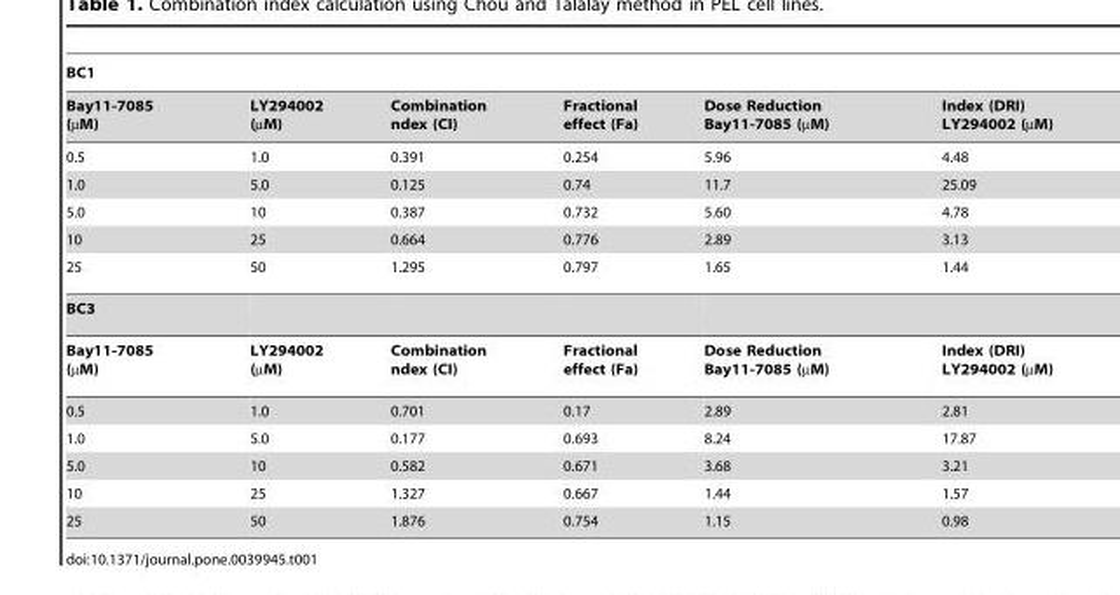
<table><thead><tr><td colspan="6">BC1</td></tr><tr><td>Bay11-7085 (µM)</td><td>LY294002 (µM)</td><td>Combination ndex (CI)</td><td>Fractional effect (Fa)</td><td>Dose Reduction Bay11-7085 (µM)</td><td>Index (DRI) LY294002 (µM)</td></tr></thead><tbody><tr><td>0.5</td><td>1.0</td><td>0.391</td><td>0.254</td><td>5.96</td><td>4.48</td></tr><tr><td>1.0</td><td>5.0</td><td>0.125</td><td>0.74</td><td>11.7</td><td>25.09</td></tr><tr><td>5.0</td><td>10</td><td>0.387</td><td>0.732</td><td>5.60</td><td>4.78</td></tr><tr><td>10</td><td>25</td><td>0.664</td><td>0.776</td><td>2.89</td><td>3.13</td></tr><tr><td>25</td><td>50</td><td>1.295</td><td>0.797</td><td>1.65</td><td>1.44</td></tr><tr><td colspan="6">BC3</td></tr><tr><td>Bay11-7085 (µM)</td><td>LY294002 (µM)</td><td>Combination ndex (CI)</td><td>Fractional effect (Fa)</td><td>Dose Reduction Bay11-7085 (µM)</td><td>Index (DRI) LY294002 (µM)</td></tr><tr><td>0.5</td><td>1.0</td><td>0.701</td><td>0.17</td><td>2.89</td><td>2.81</td></tr><tr><td>1.0</td><td>5.0</td><td>0.177</td><td>0.693</td><td>8.24</td><td>17.87</td></tr><tr><td>5.0</td><td>10</td><td>0.582</td><td>0.671</td><td>3.68</td><td>3.21</td></tr><tr><td>10</td><td>25</td><td>1.327</td><td>0.667</td><td>1.44</td><td>1.57</td></tr><tr><td>25</td><td>50</td><td>1.876</td><td>0.754</td><td>1.15</td><td>0.98</td></tr></tbody></table>